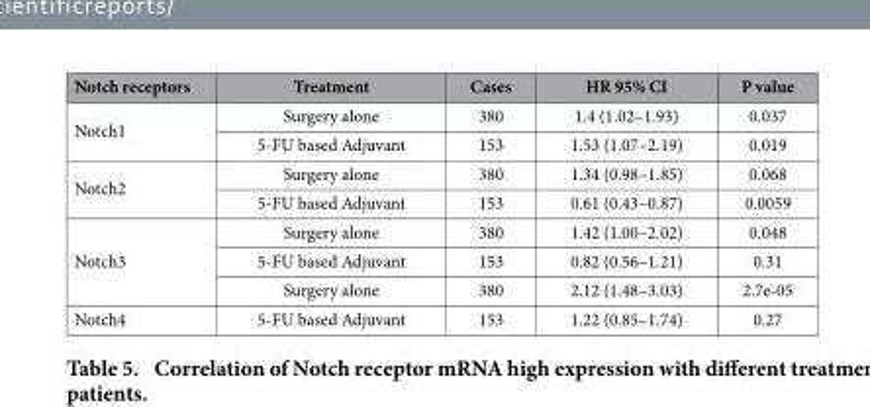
<table><thead><tr><td>Notch receptors</td><td>Treatment</td><td>Cases</td><td>HR 95% CI</td><td>P value</td></tr></thead><tbody><tr><td rowspan="2">Notch1</td><td>Surgery alone</td><td>380</td><td>1.4 (1.02–1.93)</td><td>0.037</td></tr><tr><td>5-FU based Adjuvant</td><td>153</td><td>1.53 (1.07–2.19)</td><td>0.019</td></tr><tr><td rowspan="2">Notch2</td><td>Surgery alone</td><td>380</td><td>1.34 (0.98–1.85)</td><td>0.068</td></tr><tr><td>5-FU based Adjuvant</td><td>153</td><td>0.61 (0.43–0.87)</td><td>0.0059</td></tr><tr><td rowspan="3">Notch3</td><td>Surgery alone</td><td>380</td><td>1.42 (1.00–2.02)</td><td>0.048</td></tr><tr><td>5-FU based Adjuvant</td><td>153</td><td>0.82 (0.56–1.21)</td><td>0.31</td></tr><tr><td>Surgery alone</td><td>380</td><td>2.12 (1.48–3.03)</td><td>2.7e-05</td></tr><tr><td>Notch4</td><td>5-FU based Adjuvant</td><td>153</td><td>1.22 (0.85–1.74)</td><td>0.27</td></tr></tbody></table>